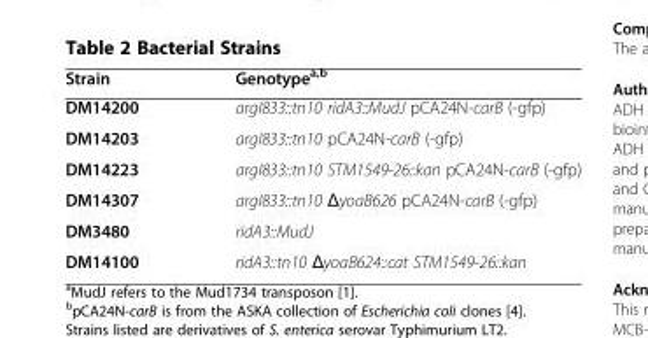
<table><thead><tr><td>Strain</td><td>Genotype<sup>a,b</sup></td></tr></thead><tbody><tr><td>DM14200</td><td>argI833::tn10 ridA3::MudJ pCA24N-carB (-gfp)</td></tr><tr><td>DM14203</td><td>argI833::tn10 pCA24N-carB (-gfp)</td></tr><tr><td>DM14223</td><td>argI833::tn10 STM1549-26::kan pCA24N-carB (-gfp)</td></tr><tr><td>DM14307</td><td>argI833::tn10 ΔyoaB626 pCA24N-carB (-gfp)</td></tr><tr><td>DM3480</td><td>ridA3::MudJ</td></tr><tr><td>DM14100</td><td>ridA3::tn10 ΔyoaB624::cat STM1549-26::kan</td></tr></tbody></table>